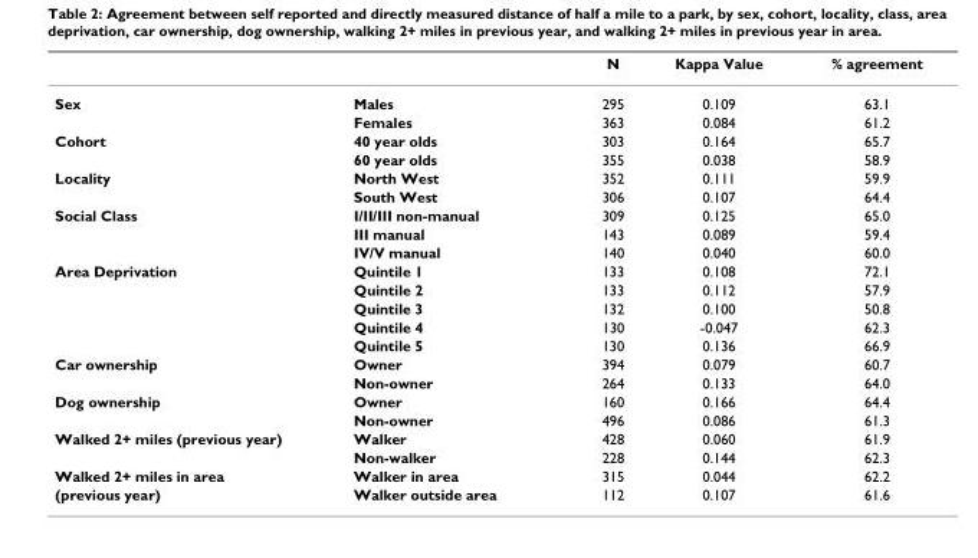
<table><thead><tr><td></td><td></td><td>N</td><td>Kappa Value</td><td>% agreement</td></tr></thead><tbody><tr><td rowspan="2">Sex</td><td>Males</td><td>295</td><td>0.109</td><td>63.1</td></tr><tr><td>Females</td><td>363</td><td>0.084</td><td>61.2</td></tr><tr><td rowspan="2">Cohort</td><td>40 year olds</td><td>303</td><td>0.164</td><td>65.7</td></tr><tr><td>60 year olds</td><td>355</td><td>0.038</td><td>58.9</td></tr><tr><td rowspan="2">Locality</td><td>North West</td><td>352</td><td>0.111</td><td>59.9</td></tr><tr><td>South West</td><td>306</td><td>0.107</td><td>64.4</td></tr><tr><td rowspan="3">Social Class</td><td>I/II/III non-manual</td><td>309</td><td>0.125</td><td>65.0</td></tr><tr><td>III manual</td><td>143</td><td>0.089</td><td>59.4</td></tr><tr><td>IV/V manual</td><td>140</td><td>0.040</td><td>60.0</td></tr><tr><td rowspan="5">Area Deprivation</td><td>Quintile 1</td><td>133</td><td>0.108</td><td>72.1</td></tr><tr><td>Quintile 2</td><td>133</td><td>0.112</td><td>57.9</td></tr><tr><td>Quintile 3</td><td>132</td><td>0.100</td><td>50.8</td></tr><tr><td>Quintile 4</td><td>130</td><td>-0.047</td><td>62.3</td></tr><tr><td>Quintile 5</td><td>130</td><td>0.136</td><td>66.9</td></tr><tr><td rowspan="2">Car ownership</td><td>Owner</td><td>394</td><td>0.079</td><td>60.7</td></tr><tr><td>Non-owner</td><td>264</td><td>0.133</td><td>64.0</td></tr><tr><td rowspan="2">Dog ownership</td><td>Owner</td><td>160</td><td>0.166</td><td>64.4</td></tr><tr><td>Non-owner</td><td>496</td><td>0.086</td><td>61.3</td></tr><tr><td rowspan="2">Walked 2+ miles (previous year)</td><td>Walker</td><td>428</td><td>0.060</td><td>61.9</td></tr><tr><td>Non-walker</td><td>228</td><td>0.144</td><td>62.3</td></tr><tr><td>Walked 2+ miles in area</td><td>Walker in area</td><td>315</td><td>0.044</td><td>62.2</td></tr><tr><td>(previous year)</td><td>Walker outside area</td><td>112</td><td>0.107</td><td>61.6</td></tr></tbody></table>